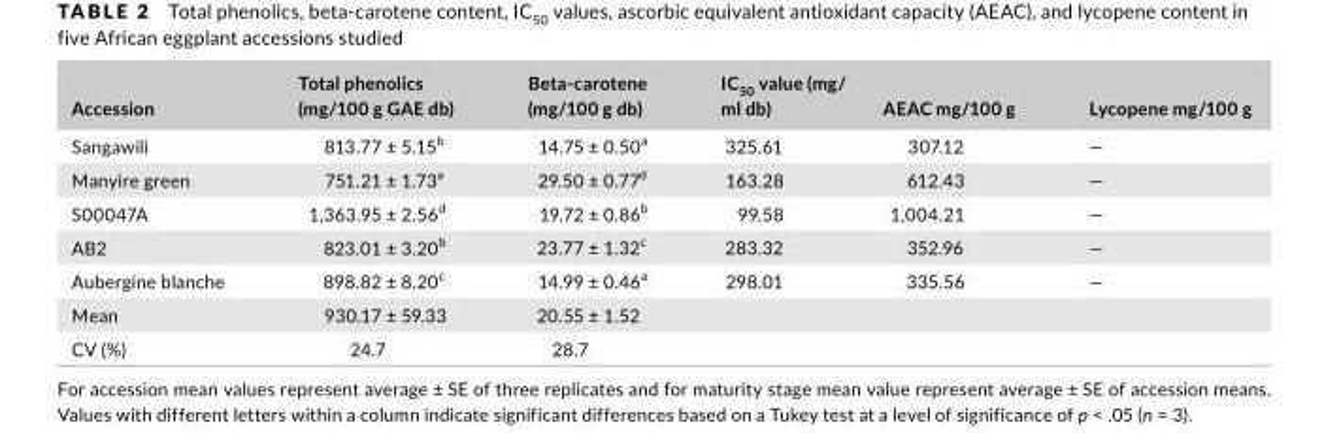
<table><thead><tr><td>Accession</td><td>Total phenolics (mg/100 g GAE db)</td><td>Beta- carotene (mg/100 g db)</td><td>IC<sub>50</sub> value (mg/ ml db)</td><td>AEAC mg/100 g</td><td>Lycopene mg/100 g</td></tr></thead><tbody><tr><td>Sangawili</td><td>813.77 ± 5.15<sup>b</sup></td><td>14.75 ± 0.50<sup>a</sup></td><td>325.61</td><td>307.12</td><td>—</td></tr><tr><td>Manyire green</td><td>751.21 ± 1.73<sup>a</sup></td><td>29.50 ± 0.77<sup>d</sup></td><td>163.28</td><td>612.43</td><td>—</td></tr><tr><td>S00047A</td><td>1,363.95 ± 2.56<sup>d</sup></td><td>19.72 ± 0.86<sup>b</sup></td><td>99.58</td><td>1,004.21</td><td>—</td></tr><tr><td>AB2</td><td>823.01 ± 3.20<sup>b</sup></td><td>23.77 ± 1.32<sup>c</sup></td><td>283.32</td><td>352.96</td><td>—</td></tr><tr><td>Aubergine blanche</td><td>898.82 ± 8.20<sup>c</sup></td><td>14.99 ± 0.46<sup>a</sup></td><td>298.01</td><td>335.56</td><td>—</td></tr><tr><td>Mean</td><td>930.17 ± 59.33</td><td>20.55 ± 1.52</td><td></td><td></td><td></td></tr><tr><td>CV (%)</td><td>24.7</td><td>28.7</td><td></td><td></td><td></td></tr></tbody></table>